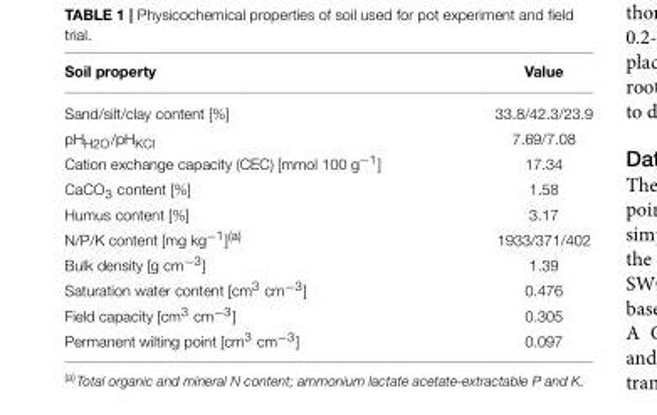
<table><thead><tr><td>Soil property</td><td>Value</td></tr></thead><tbody><tr><td>Sand/silt/clay content [%]</td><td>33.8/42.3/23.9</td></tr><tr><td>pH<sub>H2O</sub>/pH<sub>KCl</sub></td><td>7.69/7.08</td></tr><tr><td>Cation exchange capacity (CEC) [mmol 100 g<sup>−1</sup>]</td><td>17.34</td></tr><tr><td>CaCO<sub>3</sub> content [%]</td><td>1.58</td></tr><tr><td>Humus content [%]</td><td>3.17</td></tr><tr><td>N/P/K content [mg kg<sup>−1</sup>]<sup>(a)</sup></td><td>1933/371/402</td></tr><tr><td>Bulk density [g cm<sup>−3</sup>]</td><td>1.39</td></tr><tr><td>Saturation water content [cm<sup>3</sup> cm<sup>−3</sup>]</td><td>0.476</td></tr><tr><td>Field capacity [cm<sup>3</sup> cm<sup>−3</sup>]</td><td>0.305</td></tr><tr><td>Permanent wilting point [cm<sup>3</sup> cm<sup>−3</sup>]</td><td>0.097</td></tr></tbody></table>